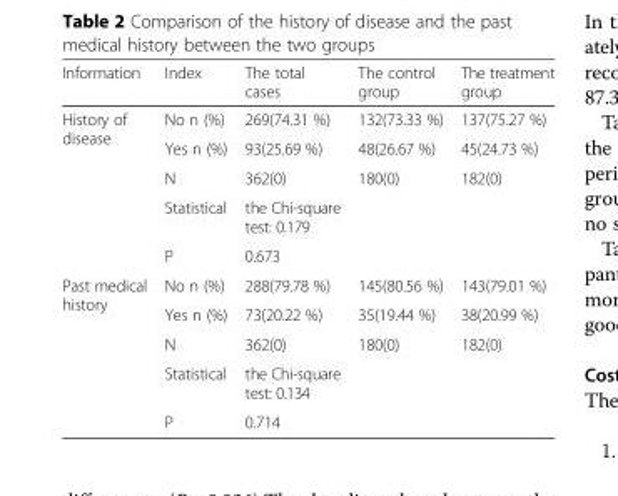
<table><thead><tr><td>Information</td><td>Index</td><td>The total cases</td><td>The control group</td><td>The treatment group</td></tr></thead><tbody><tr><td rowspan="5">History of disease</td><td>No n (%)</td><td>269(74.31 %)</td><td>132(73.33 %)</td><td>137(75.27 %)</td></tr><tr><td>Yes n (%)</td><td>93(25.69 %)</td><td>48(26.67 %)</td><td>45(24.73 %)</td></tr><tr><td>N</td><td>362(0)</td><td>180(0)</td><td>182(0)</td></tr><tr><td>Statistical</td><td>the Chi-square test: 0.179</td><td></td><td></td></tr><tr><td>P</td><td>0.673</td><td></td><td></td></tr><tr><td rowspan="5">Past medical history</td><td>No n (%)</td><td>288(79.78 %)</td><td>145(80.56 %)</td><td>143(79.01 %)</td></tr><tr><td>Yes n (%)</td><td>73(20.22 %)</td><td>35(19.44 %)</td><td>38(20.99 %)</td></tr><tr><td>N</td><td>362(0)</td><td>180(0)</td><td>182(0)</td></tr><tr><td>Statistical</td><td>the Chi-square test: 0.134</td><td></td><td></td></tr><tr><td>P</td><td>0.714</td><td></td><td></td></tr></tbody></table>